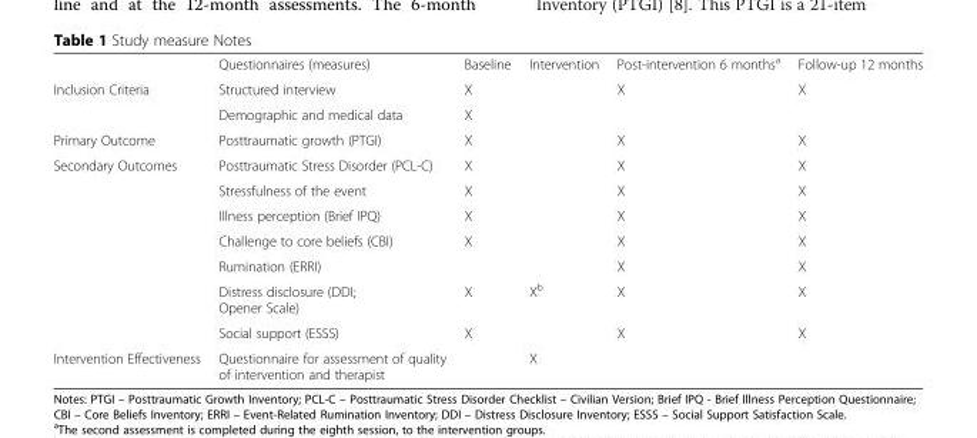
<table><thead><tr><td></td><td>Questionnaires (measures)</td><td>Baseline</td><td>Intervention</td><td>Post-intervention 6 months<sup>a</sup></td><td>Follow-up 12 months</td></tr></thead><tbody><tr><td rowspan="2">Inclusion Criteria</td><td>Structured interview</td><td>X</td><td></td><td>X</td><td>X</td></tr><tr><td>Demographic and medical data</td><td>X</td><td></td><td></td><td></td></tr><tr><td>Primary Outcome</td><td>Posttraumatic growth (PTGI)</td><td>X</td><td></td><td>X</td><td>X</td></tr><tr><td rowspan="7">Secondary Outcomes</td><td>Posttraumatic Stress Disorder (PCL-C)</td><td>X</td><td></td><td>X</td><td>X</td></tr><tr><td>Stressfulness of the event</td><td>X</td><td></td><td>X</td><td>X</td></tr><tr><td>Illness perception (Brief IPQ)</td><td>X</td><td></td><td>X</td><td>X</td></tr><tr><td>Challenge to core beliefs (CBI)</td><td>X</td><td></td><td>X</td><td>X</td></tr><tr><td>Rumination (ERRI)</td><td></td><td></td><td>X</td><td>X</td></tr><tr><td>Distress disclosure (DDI; Opener Scale)</td><td>X</td><td>X<sup>b</sup></td><td>X</td><td>X</td></tr><tr><td>Social support (ESSS)</td><td>X</td><td></td><td>X</td><td>X</td></tr><tr><td>Intervention Effectiveness</td><td>Questionnaire for assessment of quality of intervention and therapist</td><td></td><td>X</td><td></td><td></td></tr></tbody></table>